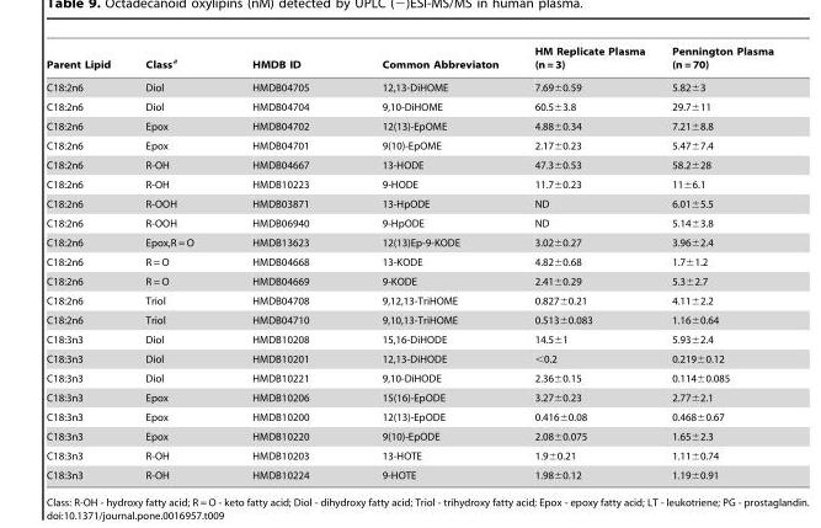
<table><thead><tr><td>Parent Lipid</td><td>Class<sup>a</sup></td><td>HMDB ID</td><td>Common Abbreviaton</td><td>HM Replicate Plasma (n = 3)</td><td>Pennington Plasma (n = 70)</td></tr></thead><tbody><tr><td>C18:2n6</td><td>Diol</td><td>HMDB04705</td><td>12,13-DiHOME</td><td>7.69±0.59</td><td>5.82±3</td></tr><tr><td>C18:2n6</td><td>Diol</td><td>HMDB04704</td><td>9,10-DiHOME</td><td>60.5±3.8</td><td>29.7±11</td></tr><tr><td>C18:2n6</td><td>Epox</td><td>HMDB04702</td><td>12(13)-EpOME</td><td>4.88±0.34</td><td>7.21±8.8</td></tr><tr><td>C18:2n6</td><td>Epox</td><td>HMDB04701</td><td>9(10)-EpOME</td><td>2.17±0.23</td><td>5.47±7.4</td></tr><tr><td>C18:2n6</td><td>R-OH</td><td>HMDB04667</td><td>13-HODE</td><td>47.3±0.53</td><td>58.2±28</td></tr><tr><td>C18:2n6</td><td>R-OH</td><td>HMDB10223</td><td>9-HODE</td><td>11.7±0.23</td><td>11±6.1</td></tr><tr><td>C18:2n6</td><td>R-OOH</td><td>HMDB03871</td><td>13-HpODE</td><td>ND</td><td>6.01±5.5</td></tr><tr><td>C18:2n6</td><td>R-OOH</td><td>HMDB06940</td><td>9-HpODE</td><td>ND</td><td>5.14±3.8</td></tr><tr><td>C18:2n6</td><td>Epox,R = O</td><td>HMDB13623</td><td>12(13)Ep-9-KODE</td><td>3.02±0.27</td><td>3.96±2.4</td></tr><tr><td>C18:2n6</td><td>R = O</td><td>HMDB04668</td><td>13-KODE</td><td>4.82±0.68</td><td>1.7±1.2</td></tr><tr><td>C18:2n6</td><td>R = O</td><td>HMDB04669</td><td>9-KODE</td><td>2.41±0.29</td><td>5.3±2.7</td></tr><tr><td>C18:2n6</td><td>Triol</td><td>HMDB04708</td><td>9,12,13-TriHOME</td><td>0.827±0.21</td><td>4.11±2.2</td></tr><tr><td>C18:2n6</td><td>Triol</td><td>HMDB04710</td><td>9,10,13-TriHOME</td><td>0.513±0.083</td><td>1.16±0.64</td></tr><tr><td>C18:3n3</td><td>Diol</td><td>HMDB10208</td><td>15,16-DiHODE</td><td>14.5±1</td><td>5.93±2.4</td></tr><tr><td>C18:3n3</td><td>Diol</td><td>HMDB10201</td><td>12,13-DiHODE</td><td>&lt;0.2</td><td>0.219±0.12</td></tr><tr><td>C18:3n3</td><td>Diol</td><td>HMDB10221</td><td>9,10-DiHODE</td><td>2.36±0.15</td><td>0.114±0.085</td></tr><tr><td>C18:3n3</td><td>Epox</td><td>HMDB10206</td><td>15(16)-EpODE</td><td>3.27±0.23</td><td>2.77±2.1</td></tr><tr><td>C18:3n3</td><td>Epox</td><td>HMDB10200</td><td>12(13)-EpODE</td><td>0.416±0.08</td><td>0.468±0.67</td></tr><tr><td>C18:3n3</td><td>Epox</td><td>HMDB10220</td><td>9(10)-EpODE</td><td>2.08±0.075</td><td>1.65±2.3</td></tr><tr><td>C18:3n3</td><td>R-OH</td><td>HMDB10203</td><td>13-HOTE</td><td>1.9±0.21</td><td>1.11±0.74</td></tr><tr><td>C18:3n3</td><td>R-OH</td><td>HMDB10224</td><td>9-HOTE</td><td>1.98±0.12</td><td>1.19±0.91</td></tr></tbody></table>